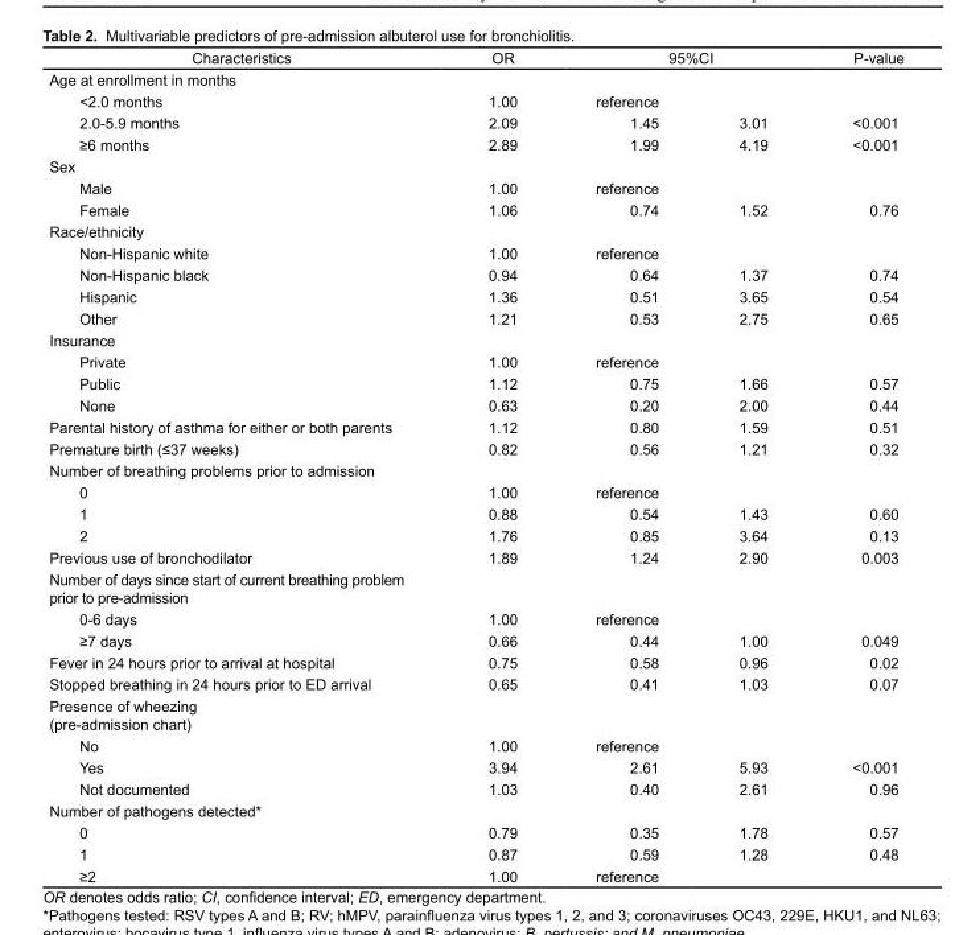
<table><thead><tr><td rowspan="2">Characteristics Age at enrollment in months</td><td rowspan="2">OR</td><td colspan="2">95%CI</td><td rowspan="2">P-value</td></tr><tr><td></td><td></td></tr></thead><tbody><tr><td>&lt;2.0 months</td><td>1.00</td><td>reference</td><td></td><td></td></tr><tr><td>2.0-5.9 months</td><td>2.09</td><td>1.45</td><td>3.01</td><td>&lt;0.001</td></tr><tr><td>≥6 months</td><td>2.89</td><td>1.99</td><td>4.19</td><td>&lt;0.001</td></tr><tr><td colspan="5">Sex</td></tr><tr><td>Male</td><td>1.00</td><td>reference</td><td></td><td></td></tr><tr><td>Female</td><td>1.06</td><td>0.74</td><td>1.52</td><td>0.76</td></tr><tr><td colspan="5">Race/ethnicity</td></tr><tr><td>Non-Hispanic white</td><td>1.00</td><td>reference</td><td></td><td></td></tr><tr><td>Non-Hispanic black</td><td>0.94</td><td>0.64</td><td>1.37</td><td>0.74</td></tr><tr><td>Hispanic</td><td>1.36</td><td>0.51</td><td>3.65</td><td>0.54</td></tr><tr><td>Other</td><td>1.21</td><td>0.53</td><td>2.75</td><td>0.65</td></tr><tr><td colspan="5">Insurance</td></tr><tr><td>Private</td><td>1.00</td><td>reference</td><td></td><td></td></tr><tr><td>Public</td><td>1.12</td><td>0.75</td><td>1.66</td><td>0.57</td></tr><tr><td>None</td><td>0.63</td><td>0.20</td><td>2.00</td><td>0.44</td></tr><tr><td>Parental history of asthma for either or both parents</td><td>1.12</td><td>0.80</td><td>1.59</td><td>0.51</td></tr><tr><td>Premature birth (≤37 weeks)</td><td>0.82</td><td>0.56</td><td>1.21</td><td>0.32</td></tr><tr><td colspan="5">Number of breathing problems prior to admission</td></tr><tr><td>0</td><td>1.00</td><td>reference</td><td></td><td></td></tr><tr><td>1</td><td>0.88</td><td>0.54</td><td>1.43</td><td>0.60</td></tr><tr><td>2</td><td>1.76</td><td>0.85</td><td>3.64</td><td>0.13</td></tr><tr><td>Previous use of bronchodilator</td><td>1.89</td><td>1.24</td><td>2.90</td><td>0.003</td></tr><tr><td colspan="5">Number of days since start of current breathing problem prior to pre-admission</td></tr><tr><td>0-6 days</td><td>1.00</td><td>reference</td><td></td><td></td></tr><tr><td>≥7 days</td><td>0.66</td><td>0.44</td><td>1.00</td><td>0.049</td></tr><tr><td>Fever in 24 hours prior to arrival at hospital</td><td>0.75</td><td>0.58</td><td>0.96</td><td>0.02</td></tr><tr><td>Stopped breathing in 24 hours prior to ED arrival</td><td>0.65</td><td>0.41</td><td>1.03</td><td>0.07</td></tr><tr><td colspan="5">Presence of wheezing (pre-admission chart)</td></tr><tr><td>No</td><td>1.00</td><td>reference</td><td></td><td></td></tr><tr><td>Yes</td><td>3.94</td><td>2.61</td><td>5.93</td><td>&lt;0.001</td></tr><tr><td>Not documented</td><td>1.03</td><td>0.40</td><td>2.61</td><td>0.96</td></tr><tr><td colspan="5">Number of pathogens detected*</td></tr><tr><td>0</td><td>0.79</td><td>0.35</td><td>1.78</td><td>0.57</td></tr><tr><td>1</td><td>0.87</td><td>0.59</td><td>1.28</td><td>0.48</td></tr><tr><td>≥2</td><td>1.00</td><td>reference</td><td></td><td></td></tr></tbody></table>